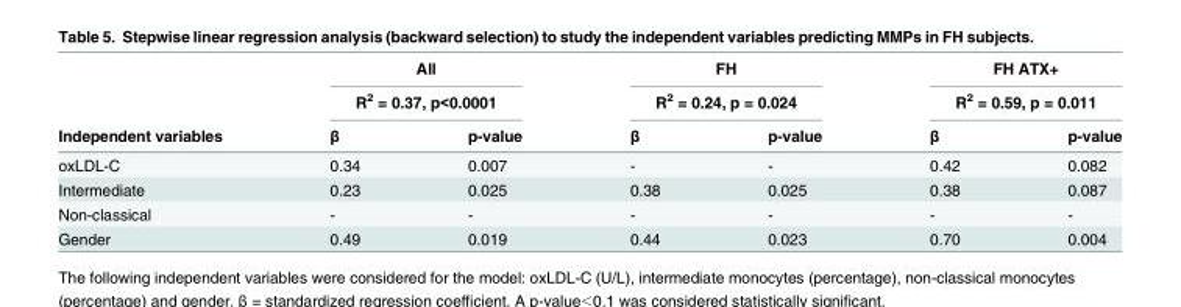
<table><thead><tr><td rowspan="3">Independent variables</td><td rowspan="2" colspan="2">All R<sup>2</sup> = 0.37, p&lt;0.0001</td><td rowspan="2" colspan="2">FH R<sup>2</sup> = 0.24, p = 0.024</td><td rowspan="2" colspan="2">FH ATX+ R<sup>2</sup> = 0.59, p = 0.011</td></tr><tr></tr><tr><td>β</td><td>p-value</td><td>β</td><td>p-value</td><td>β</td><td>p-value</td></tr></thead><tbody><tr><td>oxLDL-C</td><td>0.34</td><td>0.007</td><td>-</td><td>-</td><td>0.42</td><td>0.082</td></tr><tr><td>Intermediate</td><td>0.23</td><td>0.025</td><td>0.38</td><td>0.025</td><td>0.38</td><td>0.087</td></tr><tr><td>Non-classical</td><td>-</td><td>-</td><td>-</td><td>-</td><td>-</td><td>-</td></tr><tr><td>Gender</td><td>0.49</td><td>0.019</td><td>0.44</td><td>0.023</td><td>0.70</td><td>0.004</td></tr></tbody></table>